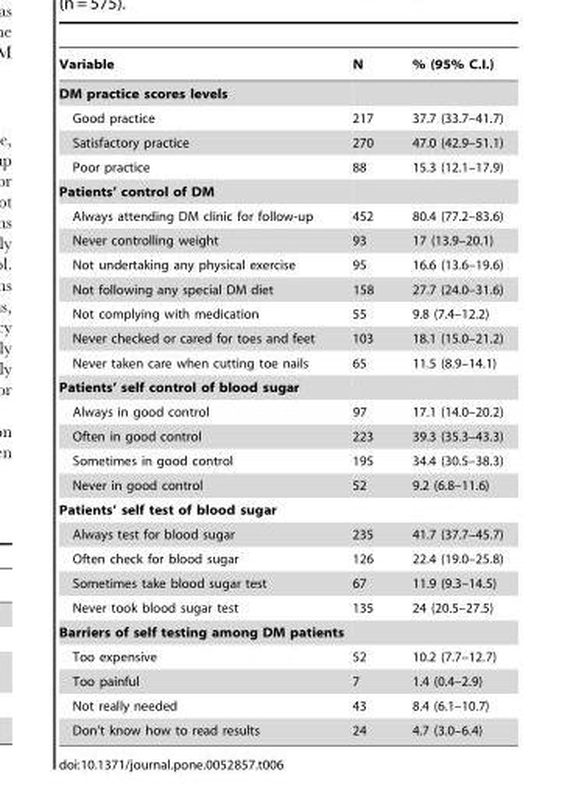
<table><thead><tr><td>Variable</td><td>N</td><td>% (95% C.I.)</td></tr></thead><tbody><tr><td colspan="3">DM practice scores levels</td></tr><tr><td>Good practice</td><td>217</td><td>37.7 (33.7–41.7)</td></tr><tr><td>Satisfactory practice</td><td>270</td><td>47.0 (42.9–51.1)</td></tr><tr><td>Poor practice</td><td>88</td><td>15.3 (12.1–17.9)</td></tr><tr><td colspan="3">Patients’ control of DM</td></tr><tr><td>Always attending DM clinic for follow-up</td><td>452</td><td>80.4 (77.2–83.6)</td></tr><tr><td>Never controlling weight</td><td>93</td><td>17 (13.9–20.1)</td></tr><tr><td>Not undertaking any physical exercise</td><td>95</td><td>16.6 (13.6–19.6)</td></tr><tr><td>Not following any special DM diet</td><td>158</td><td>27.7 (24.0–31.6)</td></tr><tr><td>Not complying with medication</td><td>55</td><td>9.8 (7.4–12.2)</td></tr><tr><td>Never checked or cared for toes and feet</td><td>103</td><td>18.1 (15.0–21.2)</td></tr><tr><td>Never taken care when cutting toe nails</td><td>65</td><td>11.5 (8.9–14.1)</td></tr><tr><td colspan="3">Patients’ self control of blood sugar</td></tr><tr><td>Always in good control</td><td>97</td><td>17.1 (14.0–20.2)</td></tr><tr><td>Often in good control</td><td>223</td><td>39.3 (35.3–43.3)</td></tr><tr><td>Sometimes in good control</td><td>195</td><td>34.4 (30.5–38.3)</td></tr><tr><td>Never in good control</td><td>52</td><td>9.2 (6.8–11.6)</td></tr><tr><td colspan="3">Patients’ self test of blood sugar</td></tr><tr><td>Always test for blood sugar</td><td>235</td><td>41.7 (37.7–45.7)</td></tr><tr><td>Often check for blood sugar</td><td>126</td><td>22.4 (19.0–25.8)</td></tr><tr><td>Sometimes take blood sugar test</td><td>67</td><td>11.9 (9.3–14.5)</td></tr><tr><td>Never took blood sugar test</td><td>135</td><td>24 (20.5–27.5)</td></tr><tr><td colspan="3">Barriers of self testing among DM patients</td></tr><tr><td>Too expensive</td><td>52</td><td>10.2 (7.7–12.7)</td></tr><tr><td>Too painful</td><td>7</td><td>1.4 (0.4–2.9)</td></tr><tr><td>Not really needed</td><td>43</td><td>8.4 (6.1–10.7)</td></tr><tr><td>Don’t know how to read results</td><td>24</td><td>4.7 (3.0–6.4)</td></tr></tbody></table>